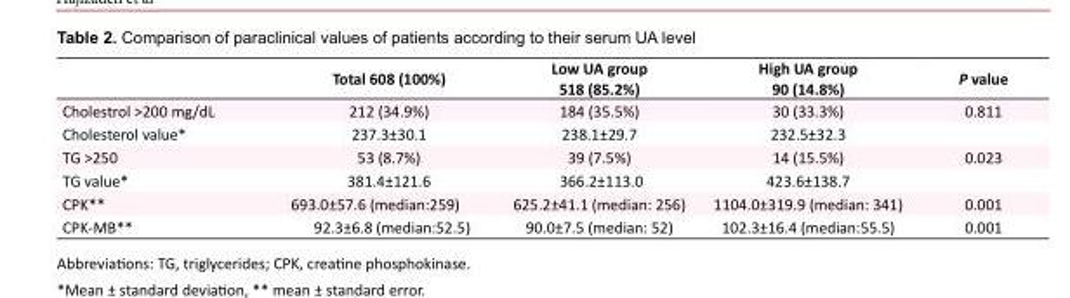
<table><thead><tr><td></td><td>Total 608 (100%)</td><td>Low UA group 518 (85.2%)</td><td>High UA group 90 (14.8%)</td><td>P value</td></tr></thead><tbody><tr><td>Cholestrol &gt;200 mg/dL</td><td>212 (34.9%)</td><td>184 (35.5%)</td><td>30 (33.3%)</td><td>0.811</td></tr><tr><td>Cholesterol value*</td><td>237.3±30.1</td><td>238.1±29.7</td><td>232.5±32.3</td><td></td></tr><tr><td>TG &gt;250</td><td>53 (8.7%)</td><td>39 (7.5%)</td><td>14 (15.5%)</td><td>0.023</td></tr><tr><td>TG value*</td><td>381.4±121.6</td><td>366.2±113.0</td><td>423.6±138.7</td><td></td></tr><tr><td>CPK**</td><td>693.0±57.6 (median:259)</td><td>625.2±41.1 (median: 256)</td><td>1104.0±319.9 (median: 341)</td><td>0.001</td></tr><tr><td>CPK-MB**</td><td>92.3±6.8 (median:52.5)</td><td>90.0±7.5 (median: 52)</td><td>102.3±16.4 (median:55.5)</td><td>0.001</td></tr></tbody></table>